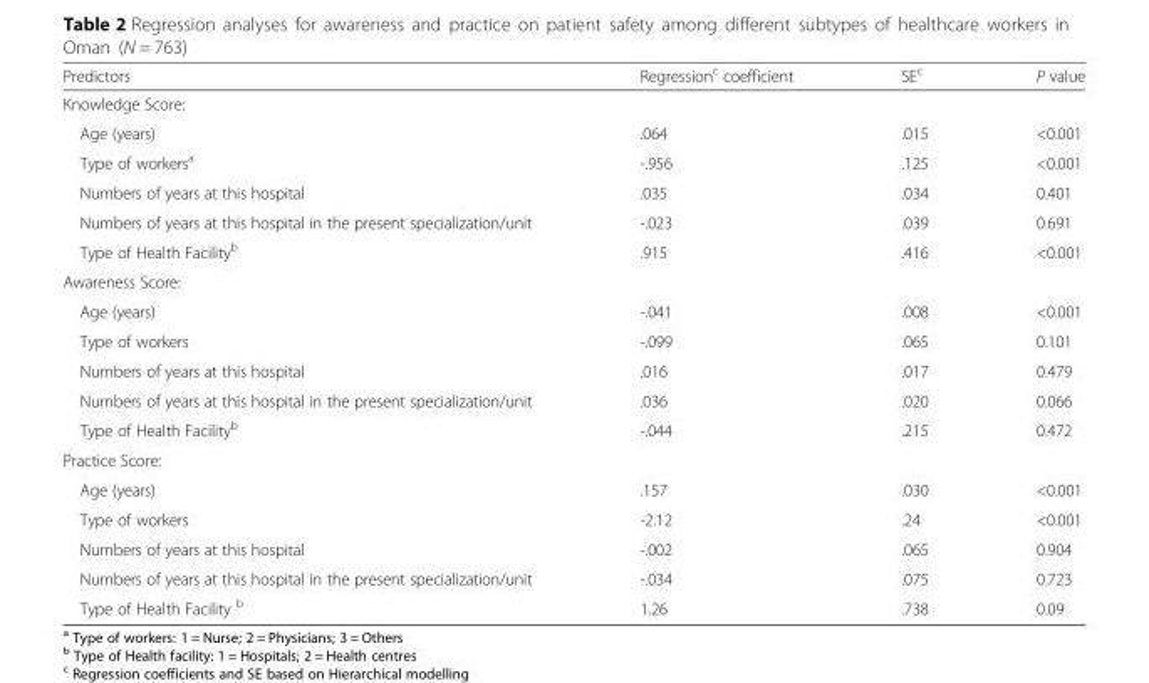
<table><thead><tr><td>Predictors</td><td>Regression<sup>c</sup> coefficient</td><td>SE<sup>c</sup></td><td>P value</td></tr></thead><tbody><tr><td colspan="4">Knowledge Score:</td></tr><tr><td>Age (years)</td><td>.064</td><td>.015</td><td>&lt;0.001</td></tr><tr><td>Type of workers<sup>a</sup></td><td>-.956</td><td>.125</td><td>&lt;0.001</td></tr><tr><td>Numbers of years at this hospital</td><td>.035</td><td>.034</td><td>0.401</td></tr><tr><td>Numbers of years at this hospital in the present specialization/unit</td><td>-.023</td><td>.039</td><td>0.691</td></tr><tr><td>Type of Health Facility<sup>b</sup></td><td>.915</td><td>.416</td><td>&lt;0.001</td></tr><tr><td colspan="4">Awareness Score:</td></tr><tr><td>Age (years)</td><td>-.041</td><td>.008</td><td>&lt;0.001</td></tr><tr><td>Type of workers</td><td>-.099</td><td>.065</td><td>0.101</td></tr><tr><td>Numbers of years at this hospital</td><td>.016</td><td>.017</td><td>0.479</td></tr><tr><td>Numbers of years at this hospital in the present specialization/unit</td><td>.036</td><td>.020</td><td>0.066</td></tr><tr><td>Type of Health Facility<sup>b</sup></td><td>-.044</td><td>.215</td><td>0.472</td></tr><tr><td colspan="4">Practice Score:</td></tr><tr><td>Age (years)</td><td>.157</td><td>.030</td><td>&lt;0.001</td></tr><tr><td>Type of workers</td><td>-2.12</td><td>.24</td><td>&lt;0.001</td></tr><tr><td>Numbers of years at this hospital</td><td>-.002</td><td>.065</td><td>0.904</td></tr><tr><td>Numbers of years at this hospital in the present specialization/unit</td><td>-.034</td><td>.075</td><td>0.723</td></tr><tr><td>Type of Health Facility <sup>b</sup></td><td>1.26</td><td>.738</td><td>0.09</td></tr></tbody></table>